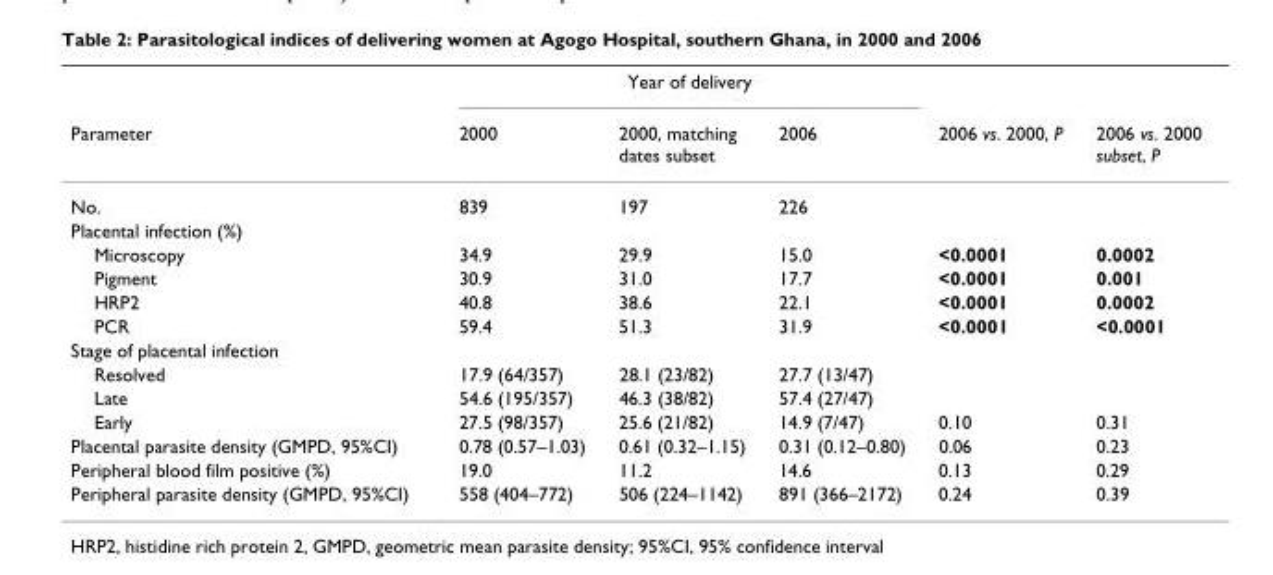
<table><thead><tr><td rowspan="2">Parameter</td><td colspan="3">Year of delivery</td><td rowspan="2">2006 vs. 2000, P</td><td rowspan="2">2006 vs. 2000 subset, P</td></tr><tr><td>2000</td><td>2000, matching dates subset</td><td>2006</td></tr></thead><tbody><tr><td>No.</td><td>839</td><td>197</td><td>226</td><td></td><td></td></tr><tr><td colspan="6">Placental infection (%)</td></tr><tr><td>Microscopy</td><td>34.9</td><td>29.9</td><td>15.0</td><td>&lt;0.0001</td><td>0.0002</td></tr><tr><td>Pigment</td><td>30.9</td><td>31.0</td><td>17.7</td><td>&lt;0.0001</td><td>0.001</td></tr><tr><td>HRP2</td><td>40.8</td><td>38.6</td><td>22.1</td><td>&lt;0.0001</td><td>0.0002</td></tr><tr><td>PCR</td><td>59.4</td><td>51.3</td><td>31.9</td><td>&lt;0.0001</td><td>&lt;0.0001</td></tr><tr><td colspan="6">Stage of placental infection</td></tr><tr><td>Resolved</td><td>17.9 (64/357)</td><td>28.1 (23/82)</td><td>27.7 (13/47)</td><td></td><td></td></tr><tr><td>Late</td><td>54.6 (195/357)</td><td>46.3 (38/82)</td><td>57.4 (27/47)</td><td></td><td></td></tr><tr><td>Early</td><td>27.5 (98/357)</td><td>25.6 (21/82)</td><td>14.9 (7/47)</td><td>0.10</td><td>0.31</td></tr><tr><td>Placental parasite density (GMPD, 95%CI)</td><td>0.78 (0.57–1.03)</td><td>0.61 (0.32–1.15)</td><td>0.31 (0.12–0.80)</td><td>0.06</td><td>0.23</td></tr><tr><td>Peripheral blood film positive (%)</td><td>19.0</td><td>11.2</td><td>14.6</td><td>0.13</td><td>0.29</td></tr><tr><td>Peripheral parasite density (GMPD, 95%CI)</td><td>558 (404–772)</td><td>506 (224–1142)</td><td>891 (366–2172)</td><td>0.24</td><td>0.39</td></tr></tbody></table>